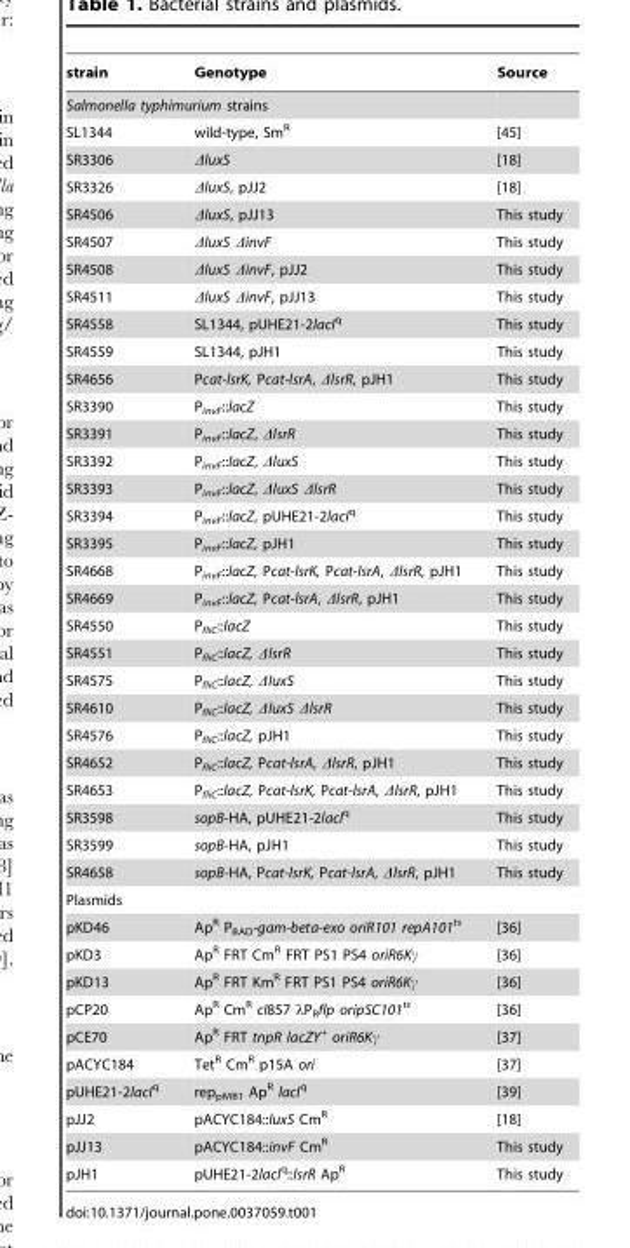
<table><thead><tr><td>strain</td><td>Genotype</td><td>Source</td></tr></thead><tbody><tr><td colspan="3">Salmonella typhimurium strains</td></tr><tr><td>SL1344</td><td>wild-type, Sm<sup>R</sup></td><td>[45]</td></tr><tr><td>SR3306</td><td>ΔluxS</td><td>[18]</td></tr><tr><td>SR3326</td><td>ΔluxS, pJJ2</td><td>[18]</td></tr><tr><td>SR4506</td><td>ΔluxS, pJJ13</td><td>This study</td></tr><tr><td>SR4507</td><td>ΔluxS ΔinvF</td><td>This study</td></tr><tr><td>SR4508</td><td>ΔluxS ΔinvF, pJJ2</td><td>This study</td></tr><tr><td>SR4511</td><td>ΔluxS ΔinvF, pJJ13</td><td>This study</td></tr><tr><td>SR4558</td><td>SL1344, pUHE21-2lacI<sup>q</sup></td><td>This study</td></tr><tr><td>SR4559</td><td>SL1344, pJH1</td><td>This study</td></tr><tr><td>SR4656</td><td>Pcat-lsrK, Pcat-lsrA, ΔlsrR, pJH1</td><td>This study</td></tr><tr><td>SR3390</td><td>P<sub>invF</sub>::lacZ</td><td>This study</td></tr><tr><td>SR3391</td><td>P<sub>invF</sub>::lacZ, ΔlsrR</td><td>This study</td></tr><tr><td>SR3392</td><td>P<sub>invF</sub>::lacZ, ΔluxS</td><td>This study</td></tr><tr><td>SR3393</td><td>P<sub>invF</sub>::lacZ, ΔluxS ΔlsrR</td><td>This study</td></tr><tr><td>SR3394</td><td>P<sub>invF</sub>::lacZ, pUHE21-2lacI<sup>q</sup></td><td>This study</td></tr><tr><td>SR3395</td><td>P<sub>invF</sub>::lacZ, pJH1</td><td>This study</td></tr><tr><td>SR4668</td><td>P<sub>invF</sub>::lacZ, Pcat-lsrK, Pcat-lsrA, ΔlsrR, pJH1</td><td>This study</td></tr><tr><td>SR4669</td><td>P<sub>invF</sub>::lacZ, Pcat-lsrA, ΔlsrR, pJH1</td><td>This study</td></tr><tr><td>SR4550</td><td>P<sub>fliC</sub>::lacZ</td><td>This study</td></tr><tr><td>SR4551</td><td>P<sub>fliC</sub>::lacZ, ΔlsrR</td><td>This study</td></tr><tr><td>SR4575</td><td>P<sub>fliC</sub>::lacZ, ΔluxS</td><td>This study</td></tr><tr><td>SR4610</td><td>P<sub>fliC</sub>::lacZ, ΔluxS ΔlsrR</td><td>This study</td></tr><tr><td>SR4576</td><td>P<sub>fliC</sub>::lacZ, pJH1</td><td>This study</td></tr><tr><td>SR4652</td><td>P<sub>fliC</sub>::lacZ, Pcat-lsrA, ΔlsrR, pJH1</td><td>This study</td></tr><tr><td>SR4653</td><td>P<sub>fliC</sub>::lacZ, Pcat-lsrK, Pcat-lsrA, ΔlsrR, pJH1</td><td>This study</td></tr><tr><td>SR3598</td><td>sopB-HA, pUHE21-2lacI<sup>q</sup></td><td>This study</td></tr><tr><td>SR3599</td><td>sopB-HA, pJH1</td><td>This study</td></tr><tr><td>SR4658</td><td>sopB-HA, Pcat-lsrK, Pcat-lsrA, ΔlsrR, pJH1</td><td>This study</td></tr><tr><td colspan="3">Plasmids</td></tr><tr><td>pKD46</td><td>Ap<sup>R</sup> P<sub>BAD</sub>-gam-beta-exo oriR101 repA101<sup>ts</sup></td><td>[36]</td></tr><tr><td>pKD3</td><td>Ap<sup>R</sup> FRT Cm<sup>R</sup> FRT PS1 PS4 oriR6Kγ</td><td>[36]</td></tr><tr><td>pKD13</td><td>Ap<sup>R</sup> FRT Km<sup>R</sup> FRT PS1 PS4 oriR6Kγ</td><td>[36]</td></tr><tr><td>pCP20</td><td>Ap<sup>R</sup> Cm<sup>R</sup> cI857 λP<sub>R</sub>flp oripSC101<sup>ts</sup></td><td>[36]</td></tr><tr><td>pCE70</td><td>Ap<sup>R</sup> FRT tnpR lacZY<sup>+</sup> oriR6Kγ</td><td>[37]</td></tr><tr><td>pACYC184</td><td>Tet<sup>R</sup> Cm<sup>R</sup> p15A ori</td><td>[37]</td></tr><tr><td>pUHE21-2lacI<sup>q</sup></td><td>rep<sub>pMB1</sub> Ap<sup>R</sup> lacI<sup>q</sup></td><td>[39]</td></tr><tr><td>pJJ2</td><td>pACYC184::luxS Cm<sup>R</sup></td><td>[18]</td></tr><tr><td>pJJ13</td><td>pACYC184::invF Cm<sup>R</sup></td><td>This study</td></tr><tr><td>pJH1</td><td>pUHE21-2lacI<sup>q</sup>::lsrR Ap<sup>R</sup></td><td>This study</td></tr></tbody></table>